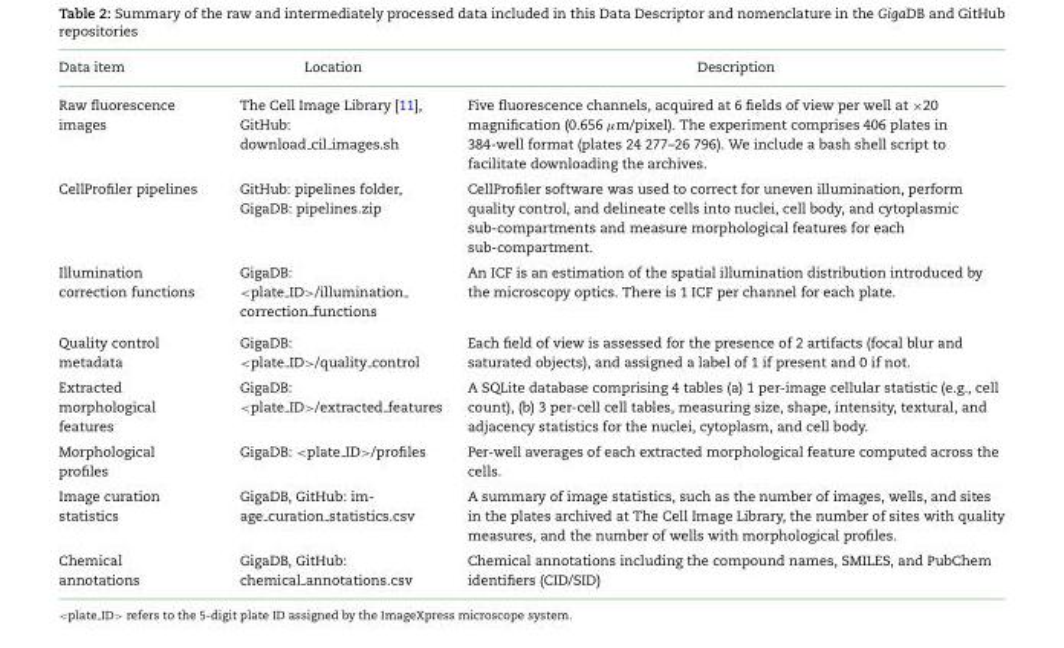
<table><thead><tr><td>Data item</td><td>Location</td><td>Description</td></tr></thead><tbody><tr><td>Raw fluorescence images</td><td>The Cell Image Library [11], GitHub: download <sub>cil</sub> images.sh</td><td>Five fluorescence channels, acquired at 6 fields of view per well at ×20 magnification (0.656 μm/pixel). The experiment comprises 406 plates in 384-well format (plates 24 277–26 796). We include a bash shell script to facilitate downloading the archives.</td></tr><tr><td>CellProfiler pipelines</td><td>GitHub: pipelines folder, GigaDB: pipelines.zip</td><td>CellProfiler software was used to correct for uneven illumination, perform quality control, and delineate cells into nuclei, cell body, and cytoplasmic sub-compartments and measure morphological features for each sub-compartment.</td></tr><tr><td>Illumination correction functions</td><td>GigaDB: &lt;plate ID&gt;/illumination correction functions</td><td>An ICF is an estimation of the spatial illumination distribution introduced by the microscopy optics. There is 1 ICF per channel for each plate.</td></tr><tr><td>Quality control metadata</td><td>GigaDB: &lt;plate <sub>ID&gt;/quality</sub> control</td><td>Each field of view is assessed for the presence of 2 artifacts (focal blur and saturated objects), and assigned a label of 1 if present and 0 if not.</td></tr><tr><td>Extracted morphological features</td><td>GigaDB: &lt;plate <sub>ID&gt;/extracted</sub> features</td><td>A SQLite database comprising 4 tables (a) 1 per-image cellular statistic (e.g., cell count), (b) 3 per-cell cell tables, measuring size, shape, intensity, textural, and adjacency statistics for the nuclei, cytoplasm, and cell body.</td></tr><tr><td>Morphological profiles</td><td>GigaDB: &lt;plate ID&gt;/profiles</td><td>Per-well averages of each extracted morphological feature computed across the cells.</td></tr><tr><td>Image curation statistics</td><td>GigaDB, GitHub: im- age curation statistics.csv</td><td>A summary of image statistics, such as the number of images, wells, and sites in the plates archived at The Cell Image Library, the number of sites with quality measures, and the number of wells with morphological profiles.</td></tr><tr><td>Chemical annotations</td><td>GigaDB, GitHub: chemical annotations.csv</td><td>Chemical annotations including the compound names, SMILES, and PubChem identifiers (CID/SID)</td></tr></tbody></table>